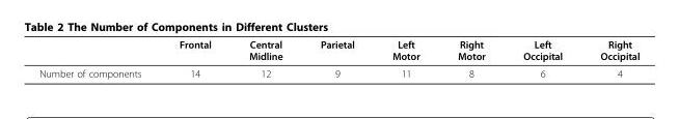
<table><thead><tr><td></td><td>Frontal</td><td>Central Midline</td><td>Parietal</td><td>Left Motor</td><td>Right Motor</td><td>Left Occipital</td><td>Right Occipital</td></tr></thead><tbody><tr><td>Number of components</td><td>14</td><td>12</td><td>9</td><td>11</td><td>8</td><td>6</td><td>4</td></tr></tbody></table>